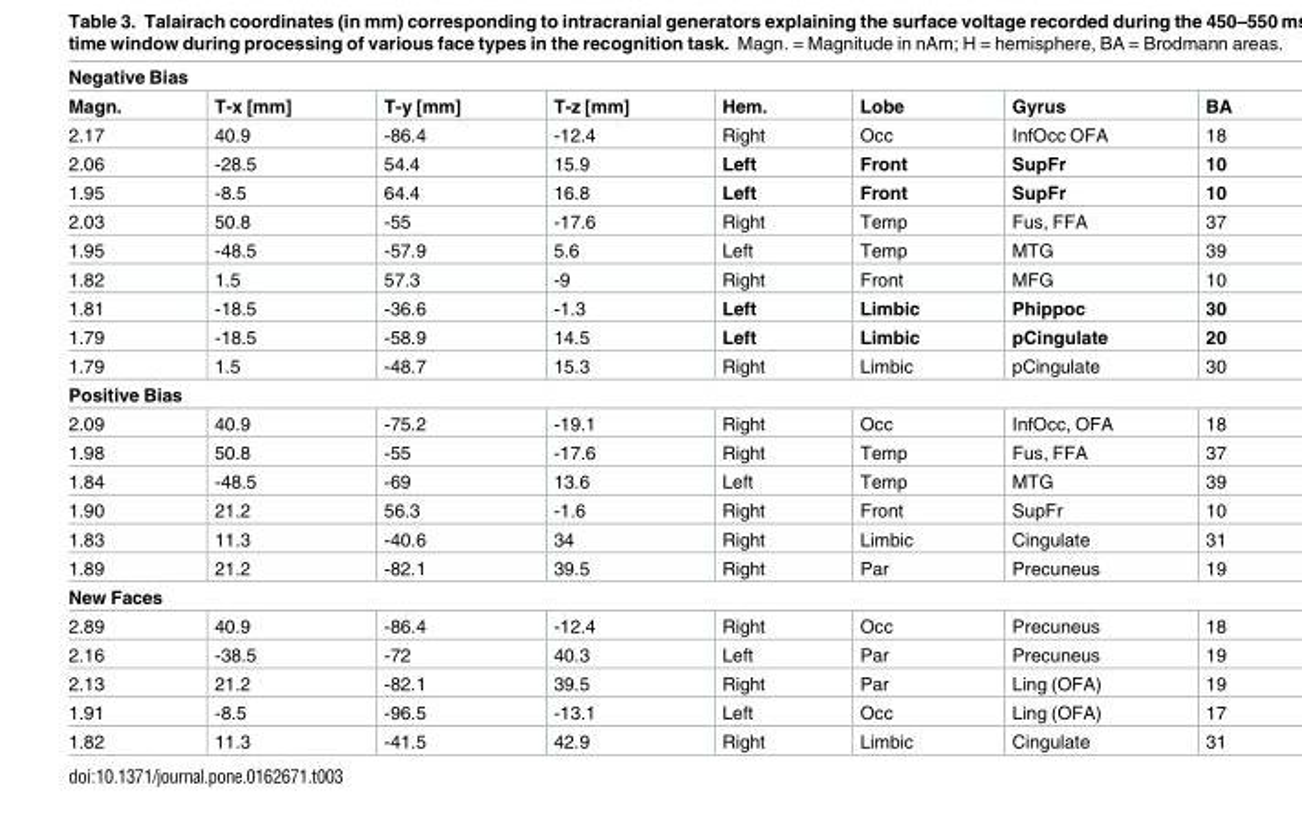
<table><tbody><tr><td colspan="8">Negative Bias</td></tr><tr><td>Magn.</td><td>T-x [mm]</td><td>T-y [mm]</td><td>T-z [mm]</td><td>Hem.</td><td>Lobe</td><td>Gyrus</td><td>BA</td></tr><tr><td>2.17</td><td>40.9</td><td>-86.4</td><td>-12.4</td><td>Right</td><td>Occ</td><td>InfOcc OFA</td><td>18</td></tr><tr><td>2.06</td><td>-28.5</td><td>54.4</td><td>15.9</td><td>Left</td><td>Front</td><td>SupFr</td><td>10</td></tr><tr><td>1.95</td><td>-8.5</td><td>64.4</td><td>16.8</td><td>Left</td><td>Front</td><td>SupFr</td><td>10</td></tr><tr><td>2.03</td><td>50.8</td><td>-55</td><td>-17.6</td><td>Right</td><td>Temp</td><td>Fus, FFA</td><td>37</td></tr><tr><td>1.95</td><td>-48.5</td><td>-57.9</td><td>5.6</td><td>Left</td><td>Temp</td><td>MTG</td><td>39</td></tr><tr><td>1.82</td><td>1.5</td><td>57.3</td><td>-9</td><td>Right</td><td>Front</td><td>MFG</td><td>10</td></tr><tr><td>1.81</td><td>-18.5</td><td>-36.6</td><td>-1.3</td><td>Left</td><td>Limbic</td><td>Phippoc</td><td>30</td></tr><tr><td>1.79</td><td>-18.5</td><td>-58.9</td><td>14.5</td><td>Left</td><td>Limbic</td><td>pCingulate</td><td>20</td></tr><tr><td>1.79</td><td>1.5</td><td>-48.7</td><td>15.3</td><td>Right</td><td>Limbic</td><td>pCingulate</td><td>30</td></tr><tr><td colspan="8">Positive Bias</td></tr><tr><td>2.09</td><td>40.9</td><td>-75.2</td><td>-19.1</td><td>Right</td><td>Occ</td><td>InfOcc, OFA</td><td>18</td></tr><tr><td>1.98</td><td>50.8</td><td>-55</td><td>-17.6</td><td>Right</td><td>Temp</td><td>Fus, FFA</td><td>37</td></tr><tr><td>1.84</td><td>-48.5</td><td>-69</td><td>13.6</td><td>Left</td><td>Temp</td><td>MTG</td><td>39</td></tr><tr><td>1.90</td><td>21.2</td><td>56.3</td><td>-1.6</td><td>Right</td><td>Front</td><td>SupFr</td><td>10</td></tr><tr><td>1.83</td><td>11.3</td><td>-40.6</td><td>34</td><td>Right</td><td>Limbic</td><td>Cingulate</td><td>31</td></tr><tr><td>1.89</td><td>21.2</td><td>-82.1</td><td>39.5</td><td>Right</td><td>Par</td><td>Precuneus</td><td>19</td></tr><tr><td colspan="8">New Faces</td></tr><tr><td>2.89</td><td>40.9</td><td>-86.4</td><td>-12.4</td><td>Right</td><td>Occ</td><td>Precuneus</td><td>18</td></tr><tr><td>2.16</td><td>-38.5</td><td>-72</td><td>40.3</td><td>Left</td><td>Par</td><td>Precuneus</td><td>19</td></tr><tr><td>2.13</td><td>21.2</td><td>-82.1</td><td>39.5</td><td>Right</td><td>Par</td><td>Ling (OFA)</td><td>19</td></tr><tr><td>1.91</td><td>-8.5</td><td>-96.5</td><td>-13.1</td><td>Left</td><td>Occ</td><td>Ling (OFA)</td><td>17</td></tr><tr><td>1.82</td><td>11.3</td><td>-41.5</td><td>42.9</td><td>Right</td><td>Limbic</td><td>Cingulate</td><td>31</td></tr></tbody></table>